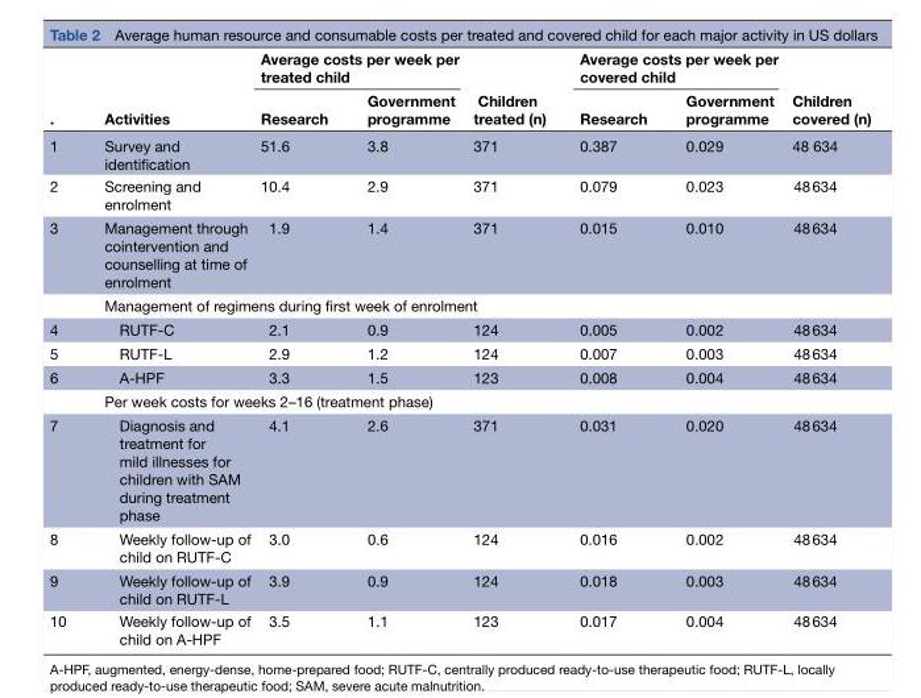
<table><thead><tr><td rowspan="2">.</td><td rowspan="2">Activities</td><td colspan="2">Average costs per week per treated child</td><td rowspan="2">Children treated (n)</td><td colspan="2">Average costs per week per covered child</td><td rowspan="2">Children covered (n)</td></tr><tr><td>Research</td><td>Government programme</td><td>Research</td><td>Government programme</td></tr></thead><tbody><tr><td>1</td><td>Survey and identification</td><td>51.6</td><td>3.8</td><td>371</td><td>0.387</td><td>0.029</td><td>48 634</td></tr><tr><td>2</td><td>Screening and enrolment</td><td>10.4</td><td>2.9</td><td>371</td><td>0.079</td><td>0.023</td><td>48 634</td></tr><tr><td rowspan="2">3</td><td>Management through cointervention and counselling at time of enrolment</td><td>1.9</td><td>1.4</td><td>371</td><td>0.015</td><td>0.010</td><td>48 634</td></tr><tr><td colspan="7">Management of regimens during first week of enrolment</td></tr><tr><td>4</td><td>RUTF-C</td><td>2.1</td><td>0.9</td><td>124</td><td>0.005</td><td>0.002</td><td>48 634</td></tr><tr><td>5</td><td>RUTF-L</td><td>2.9</td><td>1.2</td><td>124</td><td>0.007</td><td>0.003</td><td>48 634</td></tr><tr><td rowspan="2">6</td><td>A-HPF</td><td>3.3</td><td>1.5</td><td>123</td><td>0.008</td><td>0.004</td><td>48 634</td></tr><tr><td colspan="7">Per week costs for weeks 2–16 (treatment phase)</td></tr><tr><td>7</td><td>Diagnosis and treatment for mild illnesses for children with SAM during treatment phase</td><td>4.1</td><td>2.6</td><td>371</td><td>0.031</td><td>0.020</td><td>48 634</td></tr><tr><td>8</td><td>Weekly follow-up of child on RUTF-C</td><td>3.0</td><td>0.6</td><td>124</td><td>0.016</td><td>0.002</td><td>48 634</td></tr><tr><td>9</td><td>Weekly follow-up of child on RUTF-L</td><td>3.9</td><td>0.9</td><td>124</td><td>0.018</td><td>0.003</td><td>48 634</td></tr><tr><td>10</td><td>Weekly follow-up of child on A-HPF</td><td>3.5</td><td>1.1</td><td>123</td><td>0.017</td><td>0.004</td><td>48 634</td></tr></tbody></table>